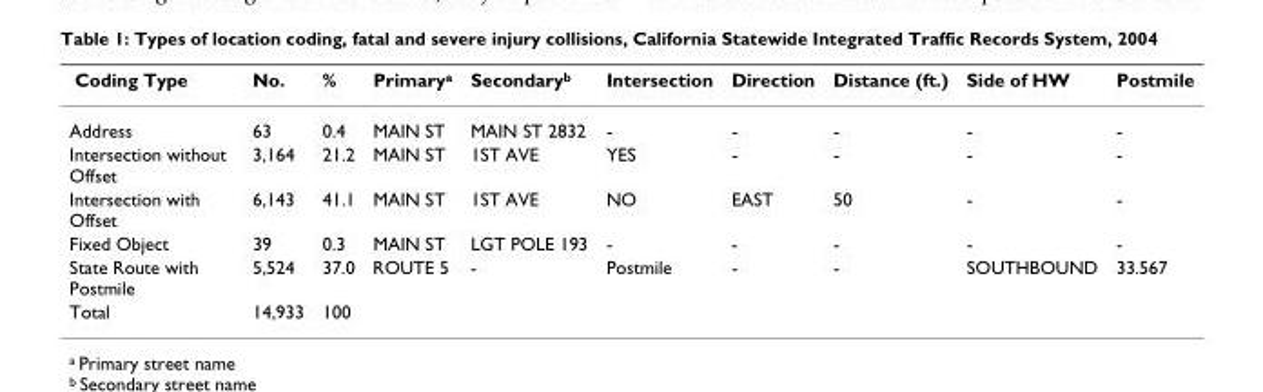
<table><thead><tr><td>Coding Type</td><td>No.</td><td>%</td><td>Primary<sup>a</sup></td><td>Secondary<sup>b</sup></td><td>Intersection</td><td>Direction</td><td>Distance (ft.)</td><td>Side of HW</td><td>Postmile</td></tr></thead><tbody><tr><td>Address</td><td>63</td><td>0.4</td><td>MAIN ST</td><td>MAIN ST 2832</td><td>-</td><td>-</td><td>-</td><td>-</td><td>-</td></tr><tr><td>Intersection without Offset</td><td>3,164</td><td>21.2</td><td>MAIN ST</td><td>1ST AVE</td><td>YES</td><td>-</td><td>-</td><td>-</td><td>-</td></tr><tr><td>Intersection with Offset</td><td>6,143</td><td>41.1</td><td>MAIN ST</td><td>1ST AVE</td><td>NO</td><td>EAST</td><td>50</td><td>-</td><td>-</td></tr><tr><td>Fixed Object</td><td>39</td><td>0.3</td><td>MAIN ST</td><td>LGT POLE 193</td><td>-</td><td>-</td><td>-</td><td>-</td><td>-</td></tr><tr><td>State Route with Postmile</td><td>5,524</td><td>37.0</td><td>ROUTE 5</td><td>-</td><td>Postmile</td><td>-</td><td>-</td><td>SOUTHBOUND</td><td>33.567</td></tr><tr><td>Total</td><td>14,933</td><td>100</td><td></td><td></td><td></td><td></td><td></td><td></td><td></td></tr></tbody></table>